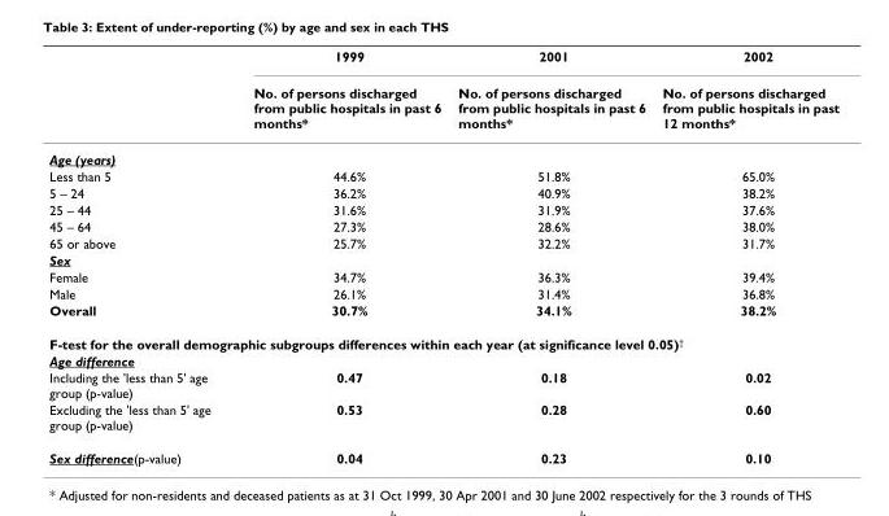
<table><thead><tr><td rowspan="2"></td><td rowspan="2">1999 No. of persons discharged from public hospitals in past 6 months*</td><td rowspan="2">2001 No. of persons discharged from public hospitals in past 6 months*</td><td rowspan="2">2002 No. of persons discharged from public hospitals in past 12 months*</td></tr><tr></tr></thead><tbody><tr><td colspan="4">Age (years)</td></tr><tr><td>Less than 5</td><td>44.6%</td><td>51.8%</td><td>65.0%</td></tr><tr><td>5 – 24</td><td>36.2%</td><td>40.9%</td><td>38.2%</td></tr><tr><td>25 – 44</td><td>31.6%</td><td>31.9%</td><td>37.6%</td></tr><tr><td>45 – 64</td><td>27.3%</td><td>28.6%</td><td>38.0%</td></tr><tr><td>65 or above</td><td>25.7%</td><td>32.2%</td><td>31.7%</td></tr><tr><td colspan="4">Sex</td></tr><tr><td>Female</td><td>34.7%</td><td>36.3%</td><td>39.4%</td></tr><tr><td>Male</td><td>26.1%</td><td>31.4%</td><td>36.8%</td></tr><tr><td>Overall</td><td>30.7%</td><td>34.1%</td><td>38.2%</td></tr><tr><td colspan="4">F-test for the overall demographic subgroups differences within each year (at significance level 0.05)<sup>†</sup></td></tr><tr><td colspan="4">Age difference</td></tr><tr><td>Including the &#x27;less than 5&#x27; age group (p-value)</td><td>0.47</td><td>0.18</td><td>0.02</td></tr><tr><td>Excluding the &#x27;less than 5&#x27; age group (p-value)</td><td>0.53</td><td>0.28</td><td>0.60</td></tr><tr><td>Sex difference(p-value)</td><td>0.04</td><td>0.23</td><td>0.10</td></tr></tbody></table>